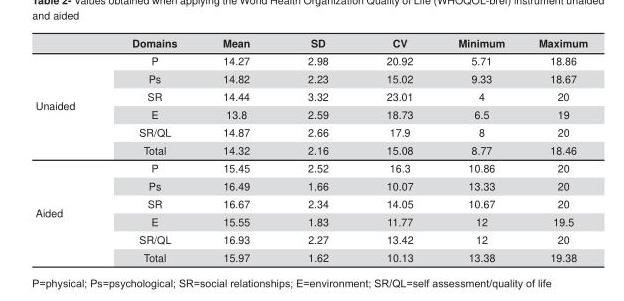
<table><thead><tr><td></td><td>Domains</td><td>Mean</td><td>SD</td><td>CV</td><td>Minimum</td><td>Maximum</td></tr></thead><tbody><tr><td rowspan="6">Unaided</td><td>P</td><td>14.27</td><td>2.98</td><td>20.92</td><td>5.71</td><td>18.86</td></tr><tr><td>Ps</td><td>14.82</td><td>2.23</td><td>15.02</td><td>9.33</td><td>18.67</td></tr><tr><td>SR</td><td>14.44</td><td>3.32</td><td>23.01</td><td>4</td><td>20</td></tr><tr><td>E</td><td>13.8</td><td>2.59</td><td>18.73</td><td>6.5</td><td>19</td></tr><tr><td>SR/QL</td><td>14.87</td><td>2.66</td><td>17.9</td><td>8</td><td>20</td></tr><tr><td>Total</td><td>14.32</td><td>2.16</td><td>15.08</td><td>8.77</td><td>18.46</td></tr><tr><td rowspan="6">Aided</td><td>P</td><td>15.45</td><td>2.52</td><td>16.3</td><td>10.86</td><td>20</td></tr><tr><td>Ps</td><td>16.49</td><td>1.66</td><td>10.07</td><td>13.33</td><td>20</td></tr><tr><td>SR</td><td>16.67</td><td>2.34</td><td>14.05</td><td>10.67</td><td>20</td></tr><tr><td>E</td><td>15.55</td><td>1.83</td><td>11.77</td><td>12</td><td>19.5</td></tr><tr><td>SR/QL</td><td>16.93</td><td>2.27</td><td>13.42</td><td>12</td><td>20</td></tr><tr><td>Total</td><td>15.97</td><td>1.62</td><td>10.13</td><td>13.38</td><td>19.38</td></tr></tbody></table>